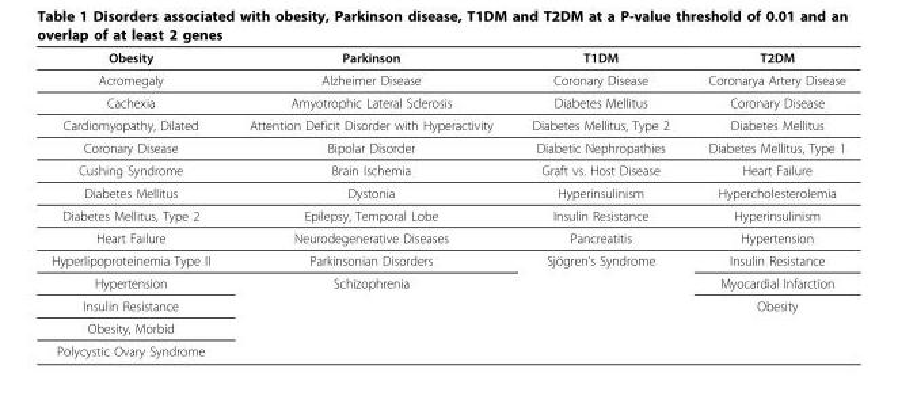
<table><thead><tr><td>Obesity</td><td>Parkinson</td><td>T1DM</td><td>T2DM</td></tr></thead><tbody><tr><td>Acromegaly</td><td>Alzheimer Disease</td><td>Coronary Disease</td><td>Coronarya Artery Disease</td></tr><tr><td>Cachexia</td><td>Amyotrophic Lateral Sclerosis</td><td>Diabetes Mellitus</td><td>Coronary Disease</td></tr><tr><td>Cardiomyopathy, Dilated</td><td>Attention Deficit Disorder with Hyperactivity</td><td>Diabetes Mellitus, Type 2</td><td>Diabetes Mellitus</td></tr><tr><td>Coronary Disease</td><td>Bipolar Disorder</td><td>Diabetic Nephropathies</td><td>Diabetes Mellitus, Type 1</td></tr><tr><td>Cushing Syndrome</td><td>Brain Ischemia</td><td>Graft vs. Host Disease</td><td>Heart Failure</td></tr><tr><td>Diabetes Mellitus</td><td>Dystonia</td><td>Hyperinsulinism</td><td>Hypercholesterolemia</td></tr><tr><td>Diabetes Mellitus, Type 2</td><td>Epilepsy, Temporal Lobe</td><td>Insulin Resistance</td><td>Hyperinsulinism</td></tr><tr><td>Heart Failure</td><td>Neurodegenerative Diseases</td><td>Pancreatitis</td><td>Hypertension</td></tr><tr><td>Hyperlipoproteinemia Type II</td><td>Parkinsonian Disorders</td><td>Sjögren’s Syndrome</td><td>Insulin Resistance</td></tr><tr><td>Hypertension</td><td>Schizophrenia</td><td></td><td>Myocardial Infarction</td></tr><tr><td>Insulin Resistance</td><td></td><td></td><td>Obesity</td></tr><tr><td colspan="4">Obesity, Morbid</td></tr><tr><td>Polycystic Ovary Syndrome</td><td></td><td></td><td></td></tr></tbody></table>